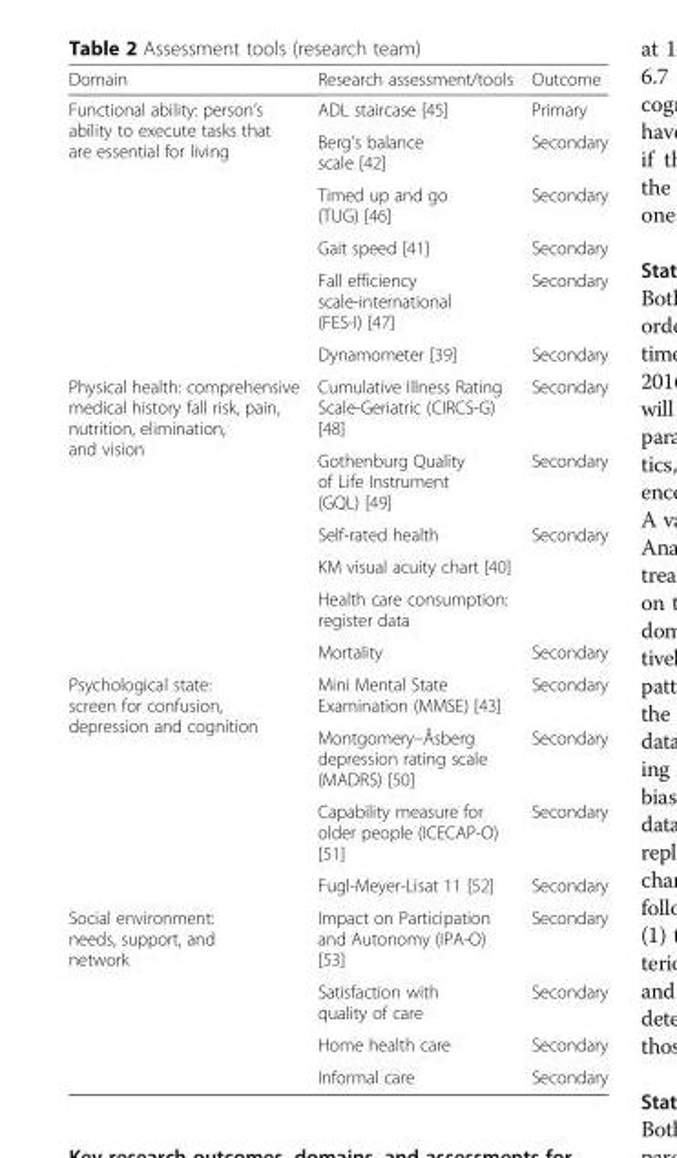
<table><thead><tr><td>Domain</td><td>Research assessment/tools</td><td>Outcome</td></tr></thead><tbody><tr><td rowspan="6">Functional ability: person’s ability to execute tasks that are essential for living</td><td>ADL staircase [45]</td><td>Primary</td></tr><tr><td>Berg’s balance scale [42]</td><td>Secondary</td></tr><tr><td>Timed up and go (TUG) [46]</td><td>Secondary</td></tr><tr><td>Gait speed [41]</td><td>Secondary</td></tr><tr><td>Fall efficiency scale-international (FES-I) [47]</td><td>Secondary</td></tr><tr><td>Dynamometer [39]</td><td>Secondary</td></tr><tr><td rowspan="6">Physical health: comprehensive medical history fall risk, pain, nutrition, elimination, and vision</td><td>Cumulative Illness Rating Scale-Geriatric (CIRCS-G) [48]</td><td>Secondary</td></tr><tr><td>Gothenburg Quality of Life Instrument (GQL) [49]</td><td>Secondary</td></tr><tr><td>Self-rated health</td><td>Secondary</td></tr><tr><td>KM visual acuity chart [40]</td><td></td></tr><tr><td>Health care consumption: register data</td><td></td></tr><tr><td>Mortality</td><td>Secondary</td></tr><tr><td rowspan="4">Psychological state: screen for confusion, depression and cognition</td><td>Mini Mental State Examination (MMSE) [43]</td><td>Secondary</td></tr><tr><td>Montgomery–Åsberg depression rating scale (MADRS) [50]</td><td>Secondary</td></tr><tr><td>Capability measure for older people (ICECAP-O) [51]</td><td>Secondary</td></tr><tr><td>Fugl-Meyer-Lisat 11 [52]</td><td>Secondary</td></tr><tr><td rowspan="4">Social environment: needs, support, and network</td><td>Impact on Participation and Autonomy (IPA-O) [53]</td><td>Secondary</td></tr><tr><td>Satisfaction with quality of care</td><td>Secondary</td></tr><tr><td>Home health care</td><td>Secondary</td></tr><tr><td>Informal care</td><td>Secondary</td></tr></tbody></table>